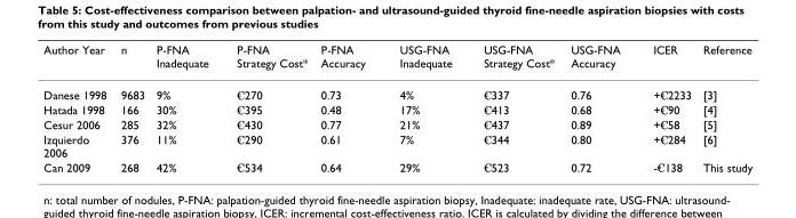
<table><thead><tr><td>Author Year</td><td>n</td><td>P-FNA Inadequate</td><td>P-FNA Strategy Cost*</td><td>P-FNA Accuracy</td><td>USG-FNA Inadequate</td><td>USG-FNA Strategy Cost*</td><td>USG-FNA Accuracy</td><td>ICER</td><td>Reference</td></tr></thead><tbody><tr><td>Danese 1998</td><td>9683</td><td>9%</td><td>€270</td><td>0.73</td><td>4%</td><td>€337</td><td>0.76</td><td>+€2233</td><td>[3]</td></tr><tr><td>Hatada 1998</td><td>166</td><td>30%</td><td>€395</td><td>0.48</td><td>17%</td><td>€413</td><td>0.68</td><td>+€90</td><td>[4]</td></tr><tr><td>Cesur 2006</td><td>285</td><td>32%</td><td>€430</td><td>0.77</td><td>21%</td><td>€437</td><td>0.89</td><td>+€58</td><td>[5]</td></tr><tr><td>Izquierdo 2006</td><td>376</td><td>11%</td><td>€290</td><td>0.61</td><td>7%</td><td>€344</td><td>0.80</td><td>+€284</td><td>[6]</td></tr><tr><td>Can 2009</td><td>268</td><td>42%</td><td>€534</td><td>0.64</td><td>29%</td><td>€523</td><td>0.72</td><td>-€138</td><td>This study</td></tr></tbody></table>